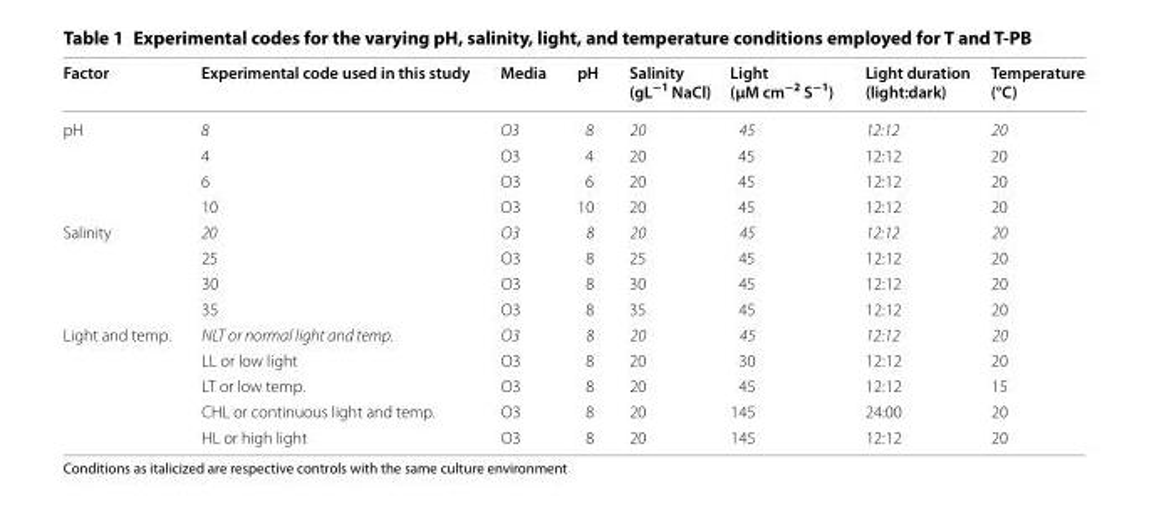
<table><thead><tr><td>Factor</td><td>Experimental code used in this study</td><td>Media</td><td>pH</td><td>Salinity (gL<sup>−1</sup> NaCl)</td><td>Light (µM cm<sup>−2</sup> S<sup>−1</sup>)</td><td>Light duration (light:dark)</td><td>Temperature (°C)</td></tr></thead><tbody><tr><td rowspan="4">pH</td><td>8</td><td>O3</td><td>8</td><td>20</td><td>45</td><td>12:12</td><td>20</td></tr><tr><td>4</td><td>O3</td><td>4</td><td>20</td><td>45</td><td>12:12</td><td>20</td></tr><tr><td>6</td><td>O3</td><td>6</td><td>20</td><td>45</td><td>12:12</td><td>20</td></tr><tr><td>10</td><td>O3</td><td>10</td><td>20</td><td>45</td><td>12:12</td><td>20</td></tr><tr><td rowspan="4">Salinity</td><td>20</td><td>O3</td><td>8</td><td>20</td><td>45</td><td>12:12</td><td>20</td></tr><tr><td>25</td><td>O3</td><td>8</td><td>25</td><td>45</td><td>12:12</td><td>20</td></tr><tr><td>30</td><td>O3</td><td>8</td><td>30</td><td>45</td><td>12:12</td><td>20</td></tr><tr><td>35</td><td>O3</td><td>8</td><td>35</td><td>45</td><td>12:12</td><td>20</td></tr><tr><td rowspan="5">Light and temp.</td><td>NLT or normal light and temp.</td><td>O3</td><td>8</td><td>20</td><td>45</td><td>12:12</td><td>20</td></tr><tr><td>LL or low light</td><td>O3</td><td>8</td><td>20</td><td>30</td><td>12:12</td><td>20</td></tr><tr><td>LT or low temp.</td><td>O3</td><td>8</td><td>20</td><td>45</td><td>12:12</td><td>15</td></tr><tr><td>CHL or continuous light and temp.</td><td>O3</td><td>8</td><td>20</td><td>145</td><td>24:00</td><td>20</td></tr><tr><td>HL or high light</td><td>O3</td><td>8</td><td>20</td><td>145</td><td>12:12</td><td>20</td></tr></tbody></table>